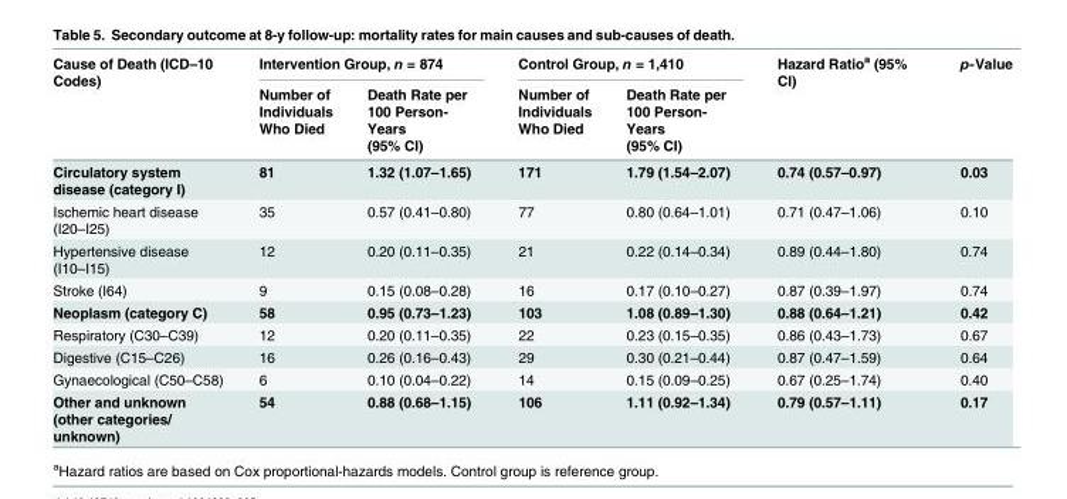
<table><thead><tr><td rowspan="2">Cause of Death (ICD–10 Codes)</td><td colspan="2">Intervention Group, n = 874</td><td colspan="2">Control Group, n = 1,410</td><td rowspan="2">Hazard Ratio<sup>a</sup> (95% CI)</td><td rowspan="2">p-Value</td></tr><tr><td>Number of Individuals Who Died</td><td>Death Rate per 100 Person- Years (95% CI)</td><td>Number of Individuals Who Died</td><td>Death Rate per 100 Person- Years (95% CI)</td></tr></thead><tbody><tr><td>Circulatory system disease (category I)</td><td>81</td><td>1.32 (1.07–1.65)</td><td>171</td><td>1.79 (1.54–2.07)</td><td>0.74 (0.57–0.97)</td><td>0.03</td></tr><tr><td>Ischemic heart disease (I20–I25)</td><td>35</td><td>0.57 (0.41–0.80)</td><td>77</td><td>0.80 (0.64–1.01)</td><td>0.71 (0.47–1.06)</td><td>0.10</td></tr><tr><td>Hypertensive disease (I10–I15)</td><td>12</td><td>0.20 (0.11–0.35)</td><td>21</td><td>0.22 (0.14–0.34)</td><td>0.89 (0.44–1.80)</td><td>0.74</td></tr><tr><td>Stroke (I64)</td><td>9</td><td>0.15 (0.08–0.28)</td><td>16</td><td>0.17 (0.10–0.27)</td><td>0.87 (0.39–1.97)</td><td>0.74</td></tr><tr><td>Neoplasm (category C)</td><td>58</td><td>0.95 (0.73–1.23)</td><td>103</td><td>1.08 (0.89–1.30)</td><td>0.88 (0.64–1.21)</td><td>0.42</td></tr><tr><td>Respiratory (C30–C39)</td><td>12</td><td>0.20 (0.11–0.35)</td><td>22</td><td>0.23 (0.15–0.35)</td><td>0.86 (0.43–1.73)</td><td>0.67</td></tr><tr><td>Digestive (C15–C26)</td><td>16</td><td>0.26 (0.16–0.43)</td><td>29</td><td>0.30 (0.21–0.44)</td><td>0.87 (0.47–1.59)</td><td>0.64</td></tr><tr><td>Gynaecological (C50–C58)</td><td>6</td><td>0.10 (0.04–0.22)</td><td>14</td><td>0.15 (0.09–0.25)</td><td>0.67 (0.25–1.74)</td><td>0.40</td></tr><tr><td>Other and unknown (other categories/ unknown)</td><td>54</td><td>0.88 (0.68–1.15)</td><td>106</td><td>1.11 (0.92–1.34)</td><td>0.79 (0.57–1.11)</td><td>0.17</td></tr></tbody></table>